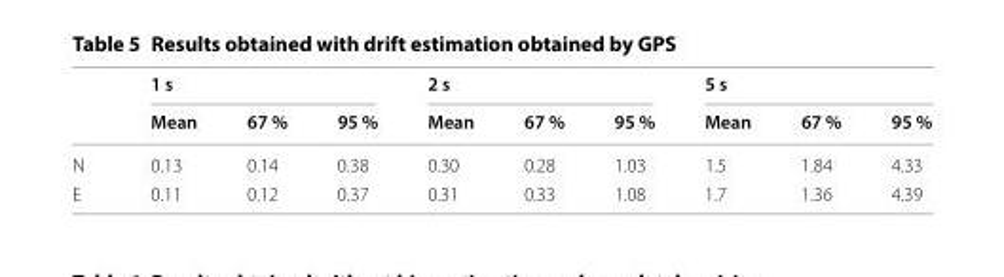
<table><thead><tr><td rowspan="2"></td><td colspan="3">1 s</td><td colspan="3">2 s</td><td colspan="3">5 s</td></tr><tr><td>Mean</td><td>67 %</td><td>95 %</td><td>Mean</td><td>67 %</td><td>95 %</td><td>Mean</td><td>67 %</td><td>95 %</td></tr></thead><tbody><tr><td>N</td><td>0.13</td><td>0.14</td><td>0.38</td><td>0.30</td><td>0.28</td><td>1.03</td><td>1.5</td><td>1.84</td><td>4.33</td></tr><tr><td>E</td><td>0.11</td><td>0.12</td><td>0.37</td><td>0.31</td><td>0.33</td><td>1.08</td><td>1.7</td><td>1.36</td><td>4.39</td></tr></tbody></table>